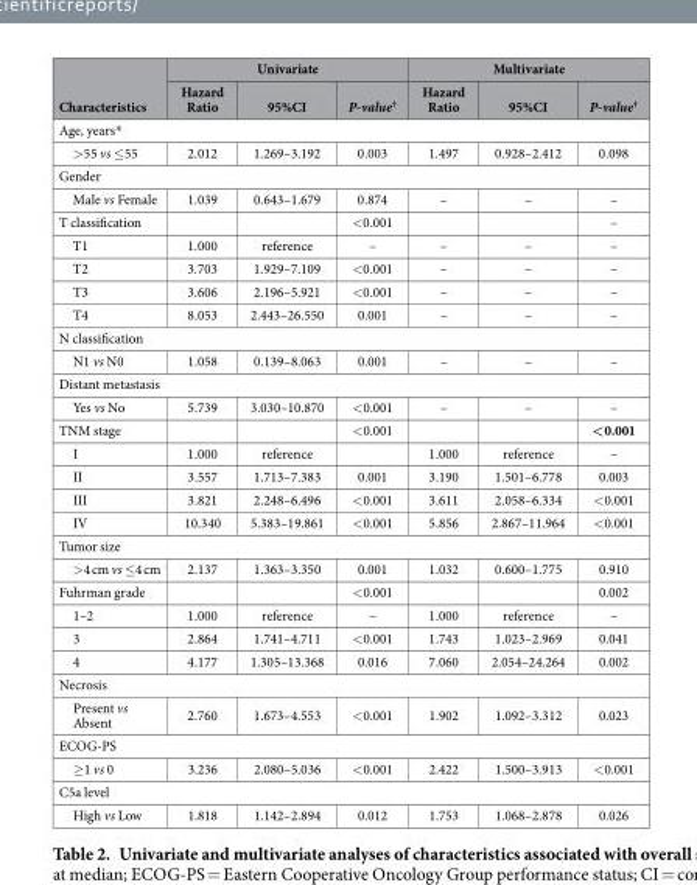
<table><thead><tr><td rowspan="2">Characteristics</td><td colspan="3">Univariate</td><td colspan="3">Multivariate</td></tr><tr><td>Hazard Ratio</td><td>95%CI</td><td>P-value<sup>†</sup></td><td>Hazard Ratio</td><td>95%CI</td><td>P-value<sup>†</sup></td></tr></thead><tbody><tr><td colspan="7">Age, years*</td></tr><tr><td>&gt; 55 vs ≤ 55</td><td>2.012</td><td>1.269–3.192</td><td>0.003</td><td>1.497</td><td>0.928–2.412</td><td>0.098</td></tr><tr><td colspan="7">Gender</td></tr><tr><td>Male vs Female</td><td>1.039</td><td>0.643–1.679</td><td>0.874</td><td>–</td><td>–</td><td>–</td></tr><tr><td>T classification</td><td></td><td></td><td>&lt; 0.001</td><td></td><td></td><td>–</td></tr><tr><td>T1</td><td>1.000</td><td>reference</td><td>–</td><td>–</td><td>–</td><td>–</td></tr><tr><td>T2</td><td>3.703</td><td>1.929–7.109</td><td>&lt; 0.001</td><td>–</td><td>–</td><td>–</td></tr><tr><td>T3</td><td>3.606</td><td>2.196–5.921</td><td>&lt; 0.001</td><td>–</td><td>–</td><td>–</td></tr><tr><td>T4</td><td>8.053</td><td>2.443–26.550</td><td>0.001</td><td>–</td><td>–</td><td>–</td></tr><tr><td colspan="7">N classification</td></tr><tr><td>N1 vs N0</td><td>1.058</td><td>0.139–8.063</td><td>0.001</td><td>–</td><td>–</td><td>–</td></tr><tr><td colspan="7">Distant metastasis</td></tr><tr><td>Yes vs No</td><td>5.739</td><td>3.030–10.870</td><td>&lt; 0.001</td><td>–</td><td>–</td><td>–</td></tr><tr><td>TNM stage</td><td></td><td></td><td>&lt; 0.001</td><td></td><td></td><td>&lt;0.001</td></tr><tr><td>I</td><td>1.000</td><td>reference</td><td></td><td>1.000</td><td>reference</td><td>–</td></tr><tr><td>II</td><td>3.557</td><td>1.713–7.383</td><td>0.001</td><td>3.190</td><td>1.501–6.778</td><td>0.003</td></tr><tr><td>III</td><td>3.821</td><td>2.248–6.496</td><td>&lt; 0.001</td><td>3.611</td><td>2.058–6.334</td><td>&lt; 0.001</td></tr><tr><td>IV</td><td>10.340</td><td>5.383–19.861</td><td>&lt; 0.001</td><td>5.856</td><td>2.867–11.964</td><td>&lt; 0.001</td></tr><tr><td colspan="7">Tumor size</td></tr><tr><td>&gt; 4 cm vs ≤4 cm</td><td>2.137</td><td>1.363–3.350</td><td>0.001</td><td>1.032</td><td>0.600–1.775</td><td>0.910</td></tr><tr><td>Fuhrman grade</td><td></td><td></td><td>&lt; 0.001</td><td></td><td></td><td>0.002</td></tr><tr><td>1–2</td><td>1.000</td><td>reference</td><td>–</td><td>1.000</td><td>reference</td><td>–</td></tr><tr><td>3</td><td>2.864</td><td>1.741–4.711</td><td>&lt; 0.001</td><td>1.743</td><td>1.023–2.969</td><td>0.041</td></tr><tr><td>4</td><td>4.177</td><td>1.305–13.368</td><td>0.016</td><td>7.060</td><td>2.054–24.264</td><td>0.002</td></tr><tr><td colspan="7">Necrosis</td></tr><tr><td>Present vs Absent</td><td>2.760</td><td>1.673–4.553</td><td>&lt; 0.001</td><td>1.902</td><td>1.092–3.312</td><td>0.023</td></tr><tr><td colspan="7">ECOG-PS</td></tr><tr><td>≥ 1 vs 0</td><td>3.236</td><td>2.080–5.036</td><td>&lt; 0.001</td><td>2.422</td><td>1.500–3.913</td><td>&lt; 0.001</td></tr><tr><td colspan="7">C5a level</td></tr><tr><td>High vs Low</td><td>1.818</td><td>1.142–2.894</td><td>0.012</td><td>1.753</td><td>1.068–2.878</td><td>0.026</td></tr></tbody></table>